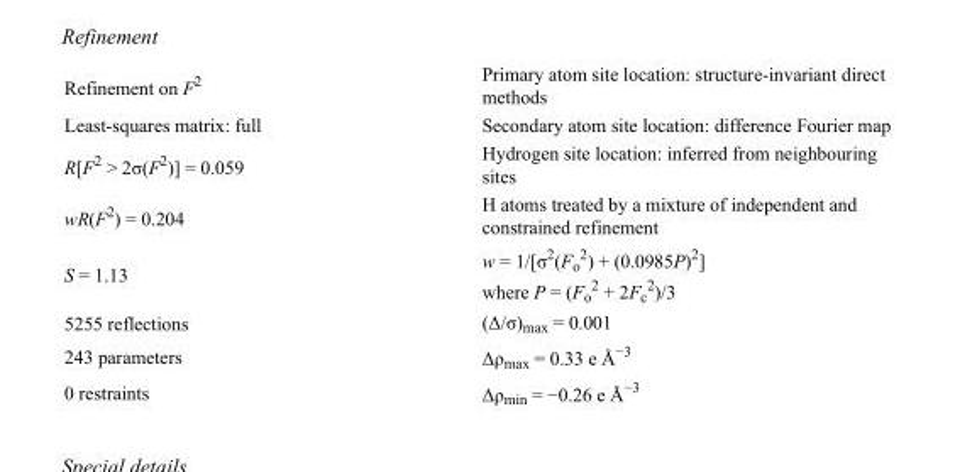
<table><tbody><tr><td>Refinement on F<sup>2</sup></td><td>Primary atom site location: structure-invariant direct methods</td></tr><tr><td>Least-squares matrix: full</td><td>Secondary atom site location: difference Fourier map</td></tr><tr><td>R[F<sup>2</sup> &gt; 2σ(F<sup>2</sup>)] = 0.059</td><td>Hydrogen site location: inferred from neighbouring sites</td></tr><tr><td>wR(F<sup>2</sup>) = 0.204</td><td>H atoms treated by a mixture of independent and constrained refinement</td></tr><tr><td>S = 1.13</td><td>w = 1/[σ<sup>2</sup>(F<sub>o</sub> <sup>2</sup>) + (0.0985P)<sup>2</sup>] where P = (F<sub>o</sub> <sup>2</sup> + 2F<sub>c</sub> <sup>2</sup>)/3</td></tr><tr><td>5255 reflections</td><td>(Δ/σ)<sub>max</sub> = 0.001</td></tr><tr><td>243 parameters</td><td>Δρ<sub>max</sub> = 0.33 e Å<sup>−3</sup></td></tr><tr><td>0 restraints</td><td>Δρ<sub>min</sub> = −0.26 e Å<sup>−3</sup></td></tr></tbody></table>